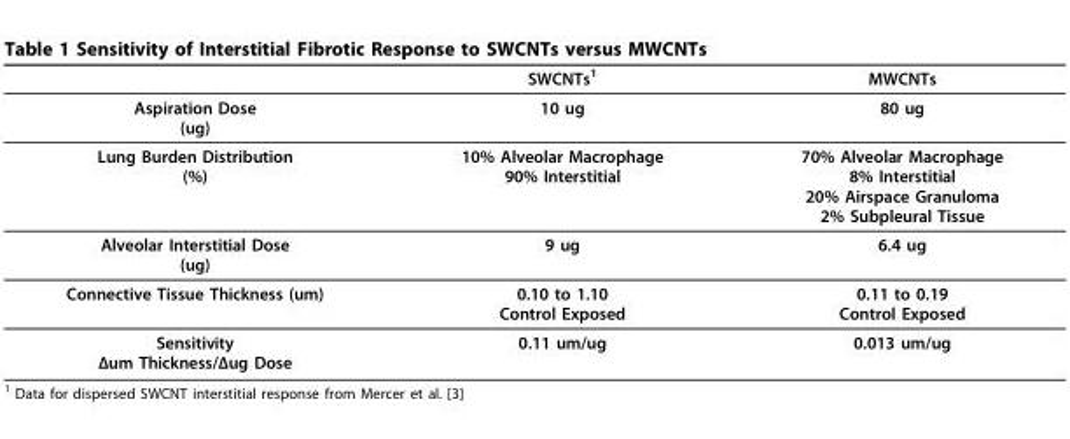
<table><thead><tr><td></td><td>SWCNTs<sup>1</sup></td><td>MWCNTs</td></tr></thead><tbody><tr><td>Aspiration Dose (ug)</td><td>10 ug</td><td>80 ug</td></tr><tr><td>Lung Burden Distribution (%)</td><td>10% Alveolar Macrophage 90% Interstitial</td><td>70% Alveolar Macrophage 8% Interstitial 20% Airspace Granuloma 2% Subpleural Tissue</td></tr><tr><td>Alveolar Interstitial Dose (ug)</td><td>9 ug</td><td>6.4 ug</td></tr><tr><td>Connective Tissue Thickness (um)</td><td>0.10 to 1.10 Control Exposed</td><td>0.11 to 0.19 Control Exposed</td></tr><tr><td>Sensitivity Δum Thickness/Δug Dose</td><td>0.11 um/ug</td><td>0.013 um/ug</td></tr></tbody></table>